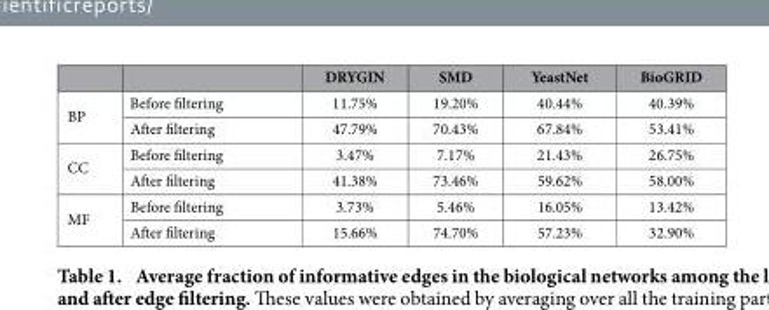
<table><thead><tr><td></td><td></td><td>DRYGIN</td><td>SMD</td><td>YeastNet</td><td>BioGRID</td></tr></thead><tbody><tr><td rowspan="2">BP</td><td>Before filtering</td><td>11.75%</td><td>19.20%</td><td>40.44%</td><td>40.39%</td></tr><tr><td>After filtering</td><td>47.79%</td><td>70.43%</td><td>67.84%</td><td>53.41%</td></tr><tr><td rowspan="2">CC</td><td>Before filtering</td><td>3.47%</td><td>7.17%</td><td>21.43%</td><td>26.75%</td></tr><tr><td>After filtering</td><td>41.38%</td><td>73.46%</td><td>59.62%</td><td>58.00%</td></tr><tr><td rowspan="2">MF</td><td>Before filtering</td><td>3.73%</td><td>5.46%</td><td>16.05%</td><td>13.42%</td></tr><tr><td>After filtering</td><td>15.66%</td><td>74.70%</td><td>57.23%</td><td>32.90%</td></tr></tbody></table>